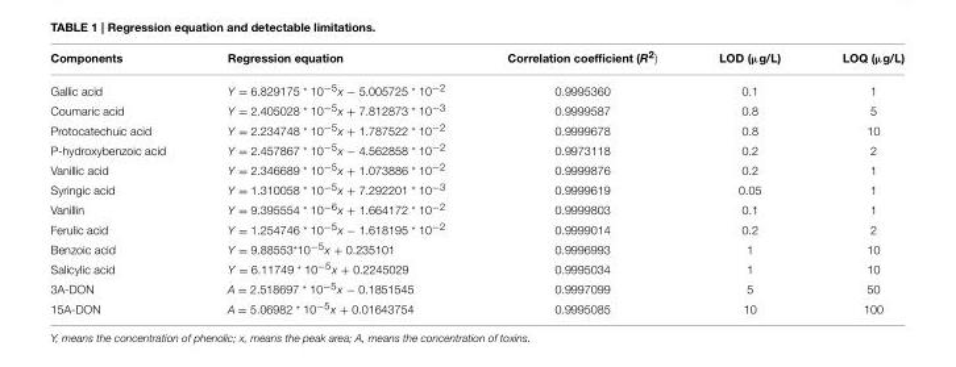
<table><thead><tr><td>Components</td><td>Regression equation</td><td>Correlation coefficient (R<sup>2</sup>)</td><td>LOD (µg/L)</td><td>LOQ (µg/L)</td></tr></thead><tbody><tr><td>Gallic acid</td><td>Y = 6.829175 * 10<sup>−5</sup>x − 5.005725 * 10<sup>−2</sup></td><td>0.9995360</td><td>0.1</td><td>1</td></tr><tr><td>Coumaric acid</td><td>Y = 2.405028 * 10<sup>−5</sup>x + 7.812873 * 10<sup>−3</sup></td><td>0.9999587</td><td>0.8</td><td>5</td></tr><tr><td>Protocatechuic acid</td><td>Y = 2.234748 * 10<sup>−5</sup>x + 1.787522 * 10<sup>−2</sup></td><td>0.9999678</td><td>0.8</td><td>10</td></tr><tr><td>P-hydroxybenzoic acid</td><td>Y = 2.457867 * 10<sup>−5</sup>x − 4.562858 * 10<sup>−2</sup></td><td>0.9973118</td><td>0.2</td><td>2</td></tr><tr><td>Vanillic acid</td><td>Y = 2.346689 * 10<sup>−5</sup>x + 1.073886 * 10<sup>−2</sup></td><td>0.9999876</td><td>0.2</td><td>1</td></tr><tr><td>Syringic acid</td><td>Y = 1.310058 * 10<sup>−5</sup>x + 7.292201 * 10<sup>−3</sup></td><td>0.9999619</td><td>0.05</td><td>1</td></tr><tr><td>Vanillin</td><td>Y = 9.395554 * 10<sup>−6</sup>x + 1.664172 * 10<sup>−2</sup></td><td>0.9999803</td><td>0.1</td><td>1</td></tr><tr><td>Ferulic acid</td><td>Y = 1.254746 * 10<sup>−5</sup>x − 1.618195 * 10<sup>−2</sup></td><td>0.9999014</td><td>0.2</td><td>2</td></tr><tr><td>Benzoic acid</td><td>Y = 9.88553*10<sup>−5</sup>x + 0.235101</td><td>0.9996993</td><td>1</td><td>10</td></tr><tr><td>Salicylic acid</td><td>Y = 6.11749 * 10<sup>−5</sup>x + 0.2245029</td><td>0.9995034</td><td>1</td><td>10</td></tr><tr><td>3A-DON</td><td>A = 2.518697 * 10<sup>−5</sup>x − 0.1851545</td><td>0.9997099</td><td>5</td><td>50</td></tr><tr><td>15A-DON</td><td>A = 5.06982 * 10<sup>−5</sup>x + 0.01643754</td><td>0.9995085</td><td>10</td><td>100</td></tr></tbody></table>